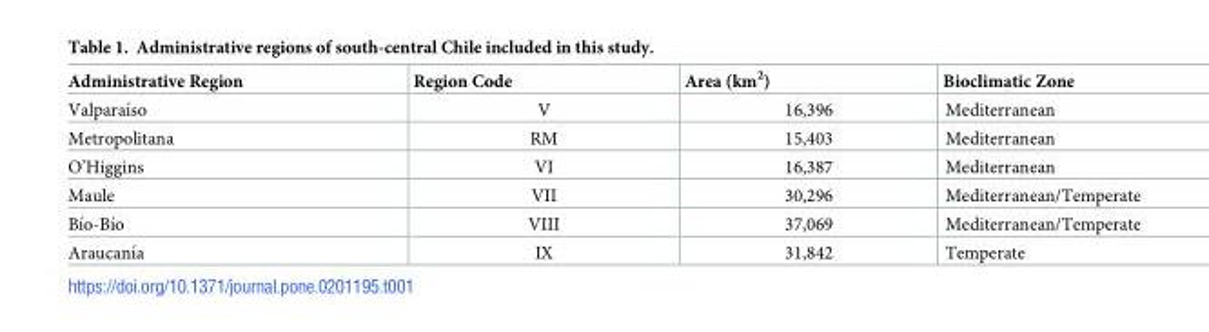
<table><thead><tr><td>Administrative Region</td><td>Region Code</td><td>Area (km<sup>2</sup>)</td><td>Bioclimatic Zone</td></tr></thead><tbody><tr><td>Valparaı´so</td><td>V</td><td>16,396</td><td>Mediterranean</td></tr><tr><td>Metropolitana</td><td>RM</td><td>15,403</td><td>Mediterranean</td></tr><tr><td>O’Higgins</td><td>VI</td><td>16,387</td><td>Mediterranean</td></tr><tr><td>Maule</td><td>VII</td><td>30,296</td><td>Mediterranean/Temperate</td></tr><tr><td>Bı´o-Bı´o</td><td>VIII</td><td>37,069</td><td>Mediterranean/Temperate</td></tr><tr><td>Araucanı´a</td><td>IX</td><td>31,842</td><td>Temperate</td></tr></tbody></table>